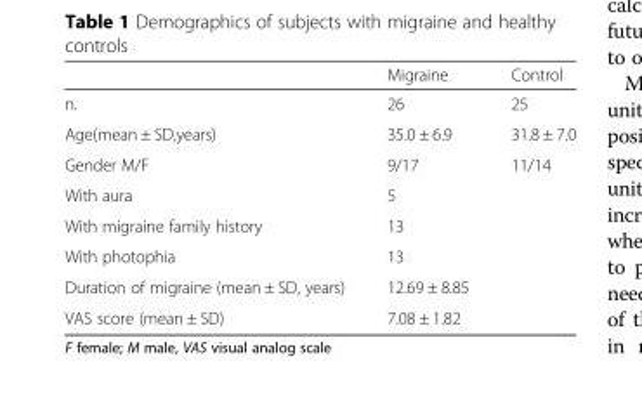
<table><thead><tr><td></td><td>Migraine</td><td>Control</td></tr></thead><tbody><tr><td>n.</td><td>26</td><td>25</td></tr><tr><td>Age(mean ± SD,years)</td><td>35.0 ± 6.9</td><td>31.8 ± 7.0</td></tr><tr><td>Gender M/F</td><td>9/17</td><td>11/14</td></tr><tr><td>With aura</td><td>5</td><td></td></tr><tr><td>With migraine family history</td><td>13</td><td></td></tr><tr><td>With photophia</td><td>13</td><td></td></tr><tr><td>Duration of migraine (mean ± SD, years)</td><td>12.69 ± 8.85</td><td></td></tr><tr><td>VAS score (mean ± SD)</td><td>7.08 ± 1.82</td><td></td></tr></tbody></table>